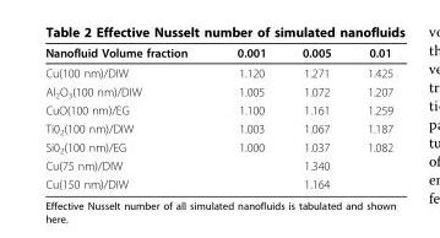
<table><thead><tr><td>Nanofluid Volume fraction</td><td>0.001</td><td>0.005</td><td>0.01</td></tr></thead><tbody><tr><td>Cu(100 nm)/DIW</td><td>1.120</td><td>1.271</td><td>1.425</td></tr><tr><td>Al<sub>2</sub>O<sub>3</sub>(100 nm)/DIW</td><td>1.005</td><td>1.072</td><td>1.207</td></tr><tr><td>CuO(100 nm)/EG</td><td>1.100</td><td>1.161</td><td>1.259</td></tr><tr><td>Ti0<sub>2</sub>(100 nm)/DIW</td><td>1.003</td><td>1.067</td><td>1.187</td></tr><tr><td>Si0<sub>2</sub>(100 nm)/EG</td><td>1.000</td><td>1.037</td><td>1.082</td></tr><tr><td>Cu(75 nm)/DIW</td><td></td><td>1.340</td><td></td></tr><tr><td>Cu(150 nm)/DIW</td><td></td><td>1.164</td><td></td></tr></tbody></table>